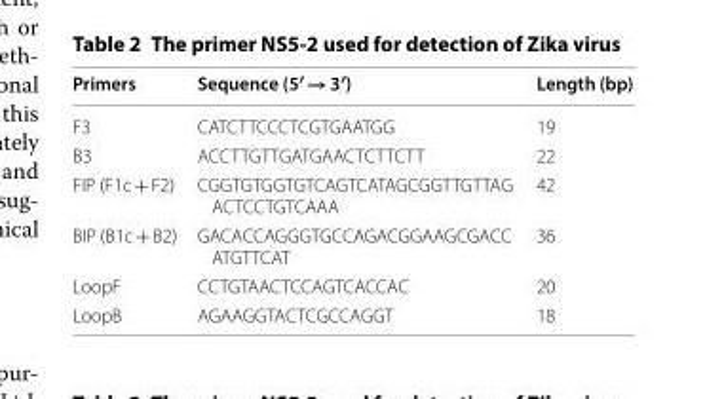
<table><thead><tr><td>Primers</td><td>Sequence (5′ → 3′)</td><td>Length (bp)</td></tr></thead><tbody><tr><td>F3</td><td>CATCTTCCCTCGTGAATGG</td><td>19</td></tr><tr><td>B3</td><td>ACCTTGTTGATGAACTCTTCTT</td><td>22</td></tr><tr><td>FIP (F1c + F2)</td><td>CGGTGTGGTGTCAGTCATAGCGGTTGTTAG ACTCCTGTCAAA</td><td>42</td></tr><tr><td>BIP (B1c + B2)</td><td>GACACCAGGGTGCCAGACGGAAGCGACC ATGTTCAT</td><td>36</td></tr><tr><td>LoopF</td><td>CCTGTAACTCCAGTCACCAC</td><td>20</td></tr><tr><td>LoopB</td><td>AGAAGGTACTCGCCAGGT</td><td>18</td></tr></tbody></table>